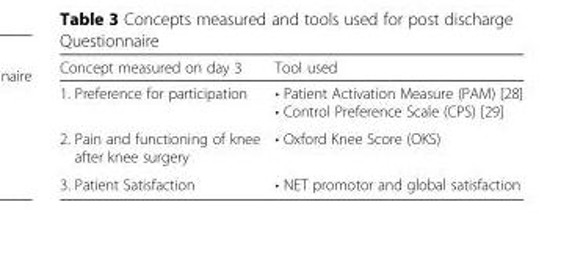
<table><thead><tr><td>Concept measured on day 3</td><td>Tool used</td></tr></thead><tbody><tr><td>1. Preference for participation</td><td>• Patient Activation Measure (PAM) [28] • Control Preference Scale (CPS) [29]</td></tr><tr><td>2. Pain and functioning of knee after knee surgery</td><td>• Oxford Knee Score (OKS)</td></tr><tr><td>3. Patient Satisfaction</td><td>• NET promotor and global satisfaction</td></tr></tbody></table>